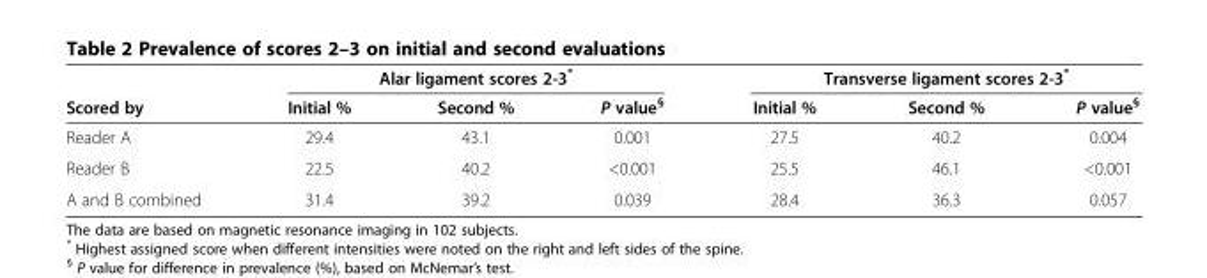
<table><thead><tr><td rowspan="2">Scored by</td><td colspan="3">Alar ligament scores 2-3*</td><td colspan="3">Transverse ligament scores 2-3*</td></tr><tr><td>Initial %</td><td>Second %</td><td>P value<sup>§</sup></td><td>Initial %</td><td>Second %</td><td>P value<sup>§</sup></td></tr></thead><tbody><tr><td>Reader A</td><td>29.4</td><td>43.1</td><td>0.001</td><td>27.5</td><td>40.2</td><td>0.004</td></tr><tr><td>Reader B</td><td>22.5</td><td>40.2</td><td>&lt;0.001</td><td>25.5</td><td>46.1</td><td>&lt;0.001</td></tr><tr><td>A and B combined</td><td>31.4</td><td>39.2</td><td>0.039</td><td>28.4</td><td>36.3</td><td>0.057</td></tr></tbody></table>